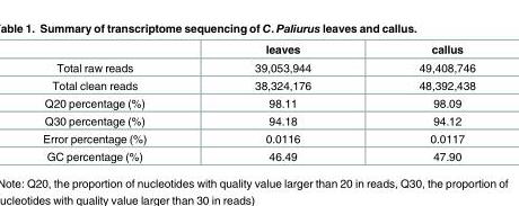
<table><thead><tr><td></td><td>leaves</td><td>callus</td></tr></thead><tbody><tr><td>Total raw reads</td><td>39,053,944</td><td>49,408,746</td></tr><tr><td>Total clean reads</td><td>38,324,176</td><td>48,392,438</td></tr><tr><td>Q20 percentage (%)</td><td>98.11</td><td>98.09</td></tr><tr><td>Q30 percentage (%)</td><td>94.18</td><td>94.12</td></tr><tr><td>Error percentage (%)</td><td>0.0116</td><td>0.0117</td></tr><tr><td>GC percentage (%)</td><td>46.49</td><td>47.90</td></tr></tbody></table>